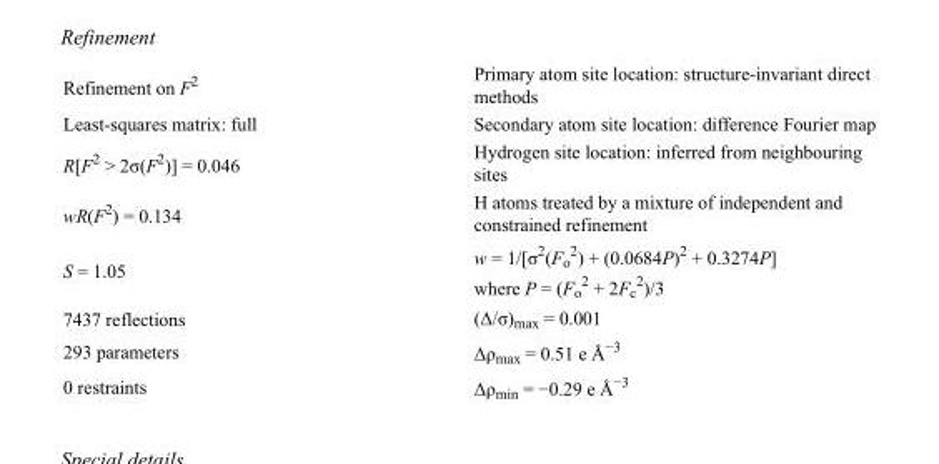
<table><tbody><tr><td>Refinement on F<sup>2</sup></td><td>Primary atom site location: structure-invariant direct methods</td></tr><tr><td>Least-squares matrix: full</td><td>Secondary atom site location: difference Fourier map</td></tr><tr><td>R[F<sup>2</sup> &gt; 2σ(F<sup>2</sup>)] = 0.046</td><td>Hydrogen site location: inferred from neighbouring sites</td></tr><tr><td>wR(F<sup>2</sup>) = 0.134</td><td>H atoms treated by a mixture of independent and constrained refinement</td></tr><tr><td>S = 1.05</td><td>w = 1/[σ<sup>2</sup>(F<sub>o</sub> <sup>2</sup>) + (0.0684P)<sup>2</sup> + 0.3274P] where P = (F<sub>o</sub> <sup>2</sup> + 2F<sub>c</sub> <sup>2</sup>)/3</td></tr><tr><td>7437 reflections</td><td>(Δ/σ)<sub>max</sub> = 0.001</td></tr><tr><td>293 parameters</td><td>Δρ<sub>max</sub> = 0.51 e Å<sup>−3</sup></td></tr><tr><td>0 restraints</td><td>Δρ<sub>min</sub> = −0.29 e Å<sup>−3</sup></td></tr></tbody></table>